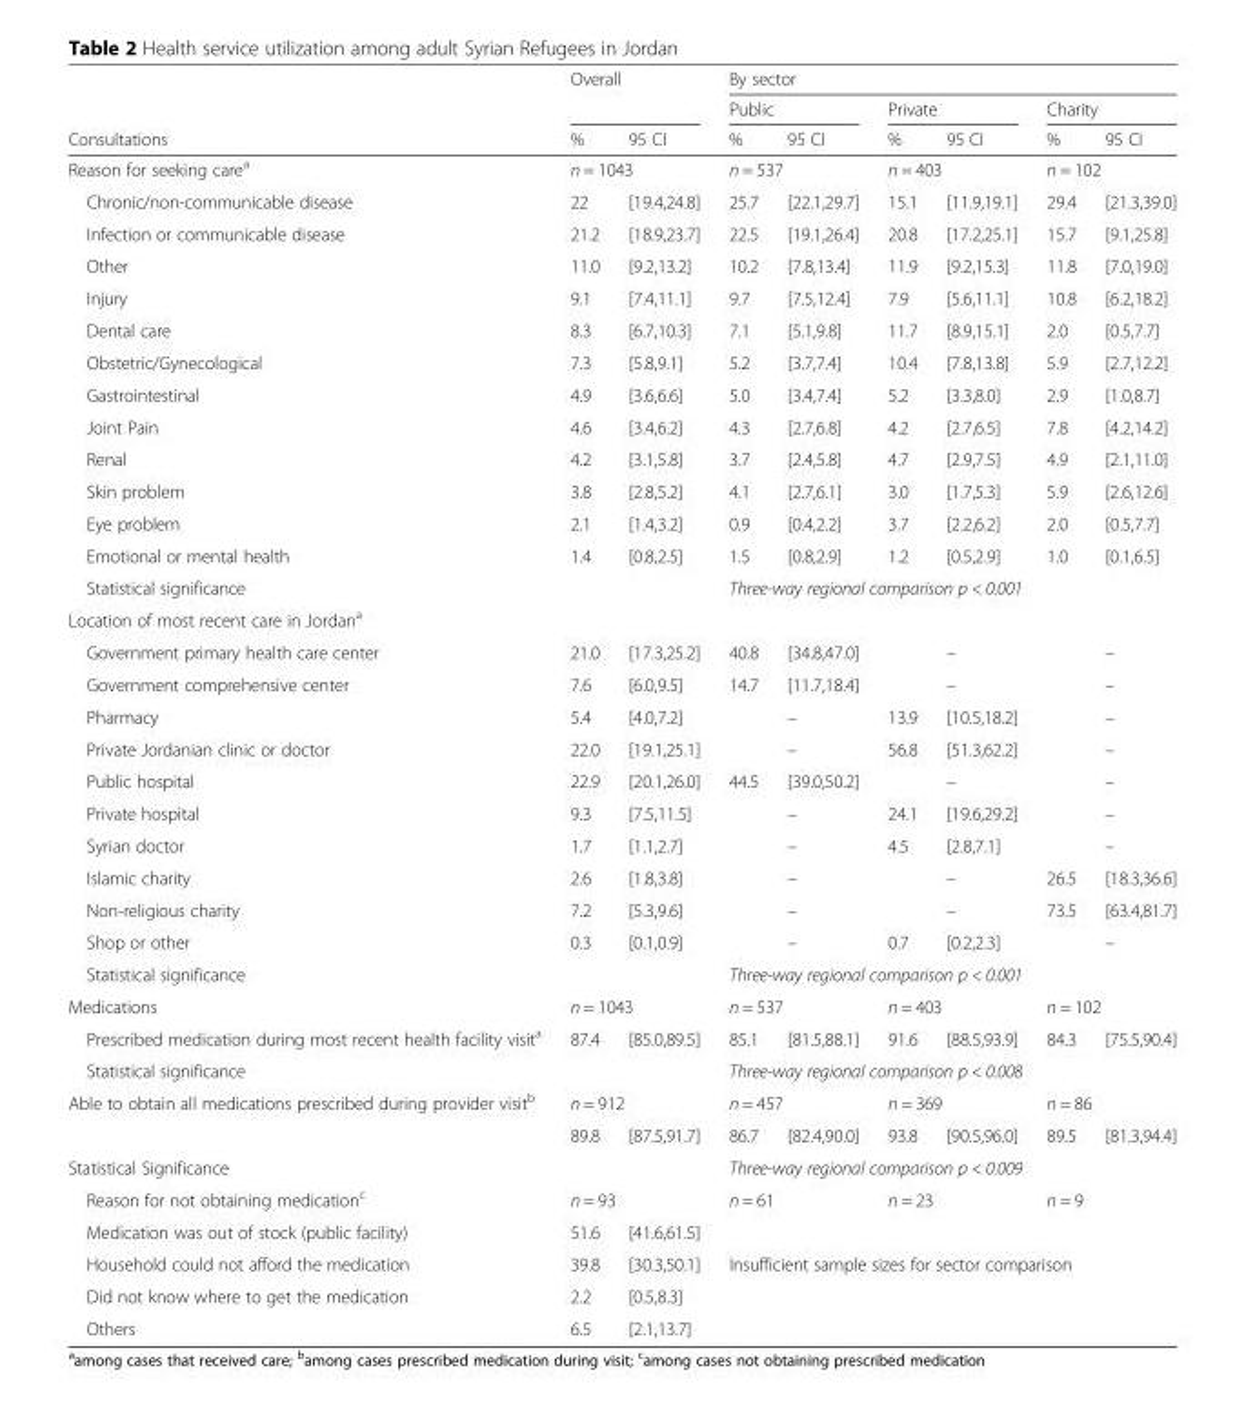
<table><thead><tr><td rowspan="3">Consultations</td><td rowspan="2" colspan="2">Overall</td><td colspan="6">By sector</td></tr><tr><td colspan="2">Public</td><td colspan="2">Private</td><td colspan="2">Charity</td></tr><tr><td>%</td><td>95 CI</td><td>%</td><td>95 CI</td><td>%</td><td>95 CI</td><td>%</td><td>95 CI</td></tr></thead><tbody><tr><td>Reason for seeking care<sup>a</sup></td><td colspan="2">n = 1043</td><td colspan="2">n = 537</td><td colspan="2">n = 403</td><td colspan="2">n = 102</td></tr><tr><td>Chronic/non-communicable disease</td><td>22</td><td>[19.4,24.8]</td><td>25.7</td><td>[22.1,29.7]</td><td>15.1</td><td>[11.9,19.1]</td><td>29.4</td><td>[21.3,39.0]</td></tr><tr><td>Infection or communicable disease</td><td>21.2</td><td>[18.9,23.7]</td><td>22.5</td><td>[19.1,26.4]</td><td>20.8</td><td>[17.2,25.1]</td><td>15.7</td><td>[9.1,25.8]</td></tr><tr><td>Other</td><td>11.0</td><td>[9.2,13.2]</td><td>10.2</td><td>[7.8,13.4]</td><td>11.9</td><td>[9.2,15.3]</td><td>11.8</td><td>[7.0,19.0]</td></tr><tr><td>Injury</td><td>9.1</td><td>[7.4,11.1]</td><td>9.7</td><td>[7.5,12.4]</td><td>7.9</td><td>[5.6,11.1]</td><td>10.8</td><td>[6.2,18.2]</td></tr><tr><td>Dental care</td><td>8.3</td><td>[6.7,10.3]</td><td>7.1</td><td>[5.1,9.8]</td><td>11.7</td><td>[8.9,15.1]</td><td>2.0</td><td>[0.5,7.7]</td></tr><tr><td>Obstetric/Gynecological</td><td>7.3</td><td>[5.8,9.1]</td><td>5.2</td><td>[3.7,7.4]</td><td>10.4</td><td>[7.8,13.8]</td><td>5.9</td><td>[2.7,12.2]</td></tr><tr><td>Gastrointestinal</td><td>4.9</td><td>[3.6,6.6]</td><td>5.0</td><td>[3.4,7.4]</td><td>5.2</td><td>[3.3,8.0]</td><td>2.9</td><td>[1.0,8.7]</td></tr><tr><td>Joint Pain</td><td>4.6</td><td>[3.4,6.2]</td><td>4.3</td><td>[2.7,6.8]</td><td>4.2</td><td>[2.7,6.5]</td><td>7.8</td><td>[4.2,14.2]</td></tr><tr><td>Renal</td><td>4.2</td><td>[3.1,5.8]</td><td>3.7</td><td>[2.4,5.8]</td><td>4.7</td><td>[2.9,7.5]</td><td>4.9</td><td>[2.1,11.0]</td></tr><tr><td>Skin problem</td><td>3.8</td><td>[2.8,5.2]</td><td>4.1</td><td>[2.7,6.1]</td><td>3.0</td><td>[1.7,5.3]</td><td>5.9</td><td>[2.6,12.6]</td></tr><tr><td>Eye problem</td><td>2.1</td><td>[1.4,3.2]</td><td>0.9</td><td>[0.4,2.2]</td><td>3.7</td><td>[2.2,6.2]</td><td>2.0</td><td>[0.5,7.7]</td></tr><tr><td>Emotional or mental health</td><td>1.4</td><td>[0.8,2.5]</td><td>1.5</td><td>[0.8,2.9]</td><td>1.2</td><td>[0.5,2.9]</td><td>1.0</td><td>[0.1,6.5]</td></tr><tr><td>Statistical significance</td><td></td><td></td><td colspan="6">Three-way regional comparison p &lt; 0.001</td></tr><tr><td colspan="9">Location of most recent care in Jordan<sup>a</sup></td></tr><tr><td>Government primary health care center</td><td>21.0</td><td>[17.3,25.2]</td><td>40.8</td><td colspan="2">[34.8,47.0]</td><td>–</td><td></td><td>–</td></tr><tr><td>Government comprehensive center</td><td>7.6</td><td>[6.0,9.5]</td><td>14.7</td><td colspan="2">[11.7,18.4]</td><td>–</td><td></td><td>–</td></tr><tr><td>Pharmacy</td><td>5.4</td><td>[4.0,7.2]</td><td></td><td>–</td><td>13.9</td><td>[10.5,18.2]</td><td></td><td>–</td></tr><tr><td>Private Jordanian clinic or doctor</td><td>22.0</td><td>[19.1,25.1]</td><td></td><td>–</td><td>56.8</td><td>[51.3,62.2]</td><td></td><td>–</td></tr><tr><td>Public hospital</td><td>22.9</td><td>[20.1,26.0]</td><td>44.5</td><td colspan="2">[39.0,50.2]</td><td>–</td><td></td><td>–</td></tr><tr><td>Private hospital</td><td>9.3</td><td>[7.5,11.5]</td><td></td><td>–</td><td>24.1</td><td>[19.6,29.2]</td><td></td><td>–</td></tr><tr><td>Syrian doctor</td><td>1.7</td><td>[1.1,2.7]</td><td></td><td>–</td><td>4.5</td><td>[2.8,7.1]</td><td></td><td>–</td></tr><tr><td>Islamic charity</td><td>2.6</td><td>[1.8,3.8]</td><td></td><td>–</td><td></td><td>–</td><td>26.5</td><td>[18.3,36.6]</td></tr><tr><td>Non-religious charity</td><td>7.2</td><td>[5.3,9.6]</td><td></td><td>–</td><td></td><td>–</td><td>73.5</td><td>[63.4,81.7]</td></tr><tr><td>Shop or other</td><td>0.3</td><td>[0.1,0.9]</td><td></td><td>–</td><td>0.7</td><td>[0.2,2.3]</td><td></td><td>–</td></tr><tr><td>Statistical significance</td><td></td><td></td><td colspan="6">Three-way regional comparison p &lt; 0.001</td></tr><tr><td>Medications</td><td colspan="2">n = 1043</td><td colspan="2">n = 537</td><td colspan="2">n = 403</td><td colspan="2">n = 102</td></tr><tr><td>Prescribed medication during most recent health facility visit<sup>a</sup></td><td>87.4</td><td>[85.0,89.5]</td><td>85.1</td><td>[81.5,88.1]</td><td>91.6</td><td>[88.5,93.9]</td><td>84.3</td><td>[75.5,90.4]</td></tr><tr><td>Statistical significance</td><td></td><td></td><td colspan="6">Three-way regional comparison p &lt; 0.008</td></tr><tr><td rowspan="2">Able to obtain all medications prescribed during provider visit<sup>b</sup></td><td colspan="2">n = 912</td><td colspan="2">n = 457</td><td colspan="2">n = 369</td><td colspan="2">n = 86</td></tr><tr><td>89.8</td><td>[87.5,91.7]</td><td>86.7</td><td>[82.4,90.0]</td><td>93.8</td><td>[90.5,96.0]</td><td>89.5</td><td>[81.3,94.4]</td></tr><tr><td>Statistical Significance</td><td></td><td></td><td colspan="6">Three-way regional comparison p &lt; 0.009</td></tr><tr><td>Reason for not obtaining medication<sup>c</sup></td><td colspan="2">n = 93</td><td colspan="2">n = 61</td><td colspan="2">n = 23</td><td colspan="2">n = 9</td></tr><tr><td>Medication was out of stock (public facility)</td><td>51.6</td><td>[41.6,61.5]</td><td></td><td></td><td></td><td></td><td></td><td></td></tr><tr><td>Household could not afford the medication</td><td>39.8</td><td>[30.3,50.1]</td><td rowspan="3" colspan="6">Insufficient sample sizes for sector comparison</td></tr><tr><td>Did not know where to get the medication</td><td>2.2</td><td>[0.5,8.3]</td></tr><tr><td>Others</td><td>6.5</td><td>[2.1,13.7]</td></tr></tbody></table>